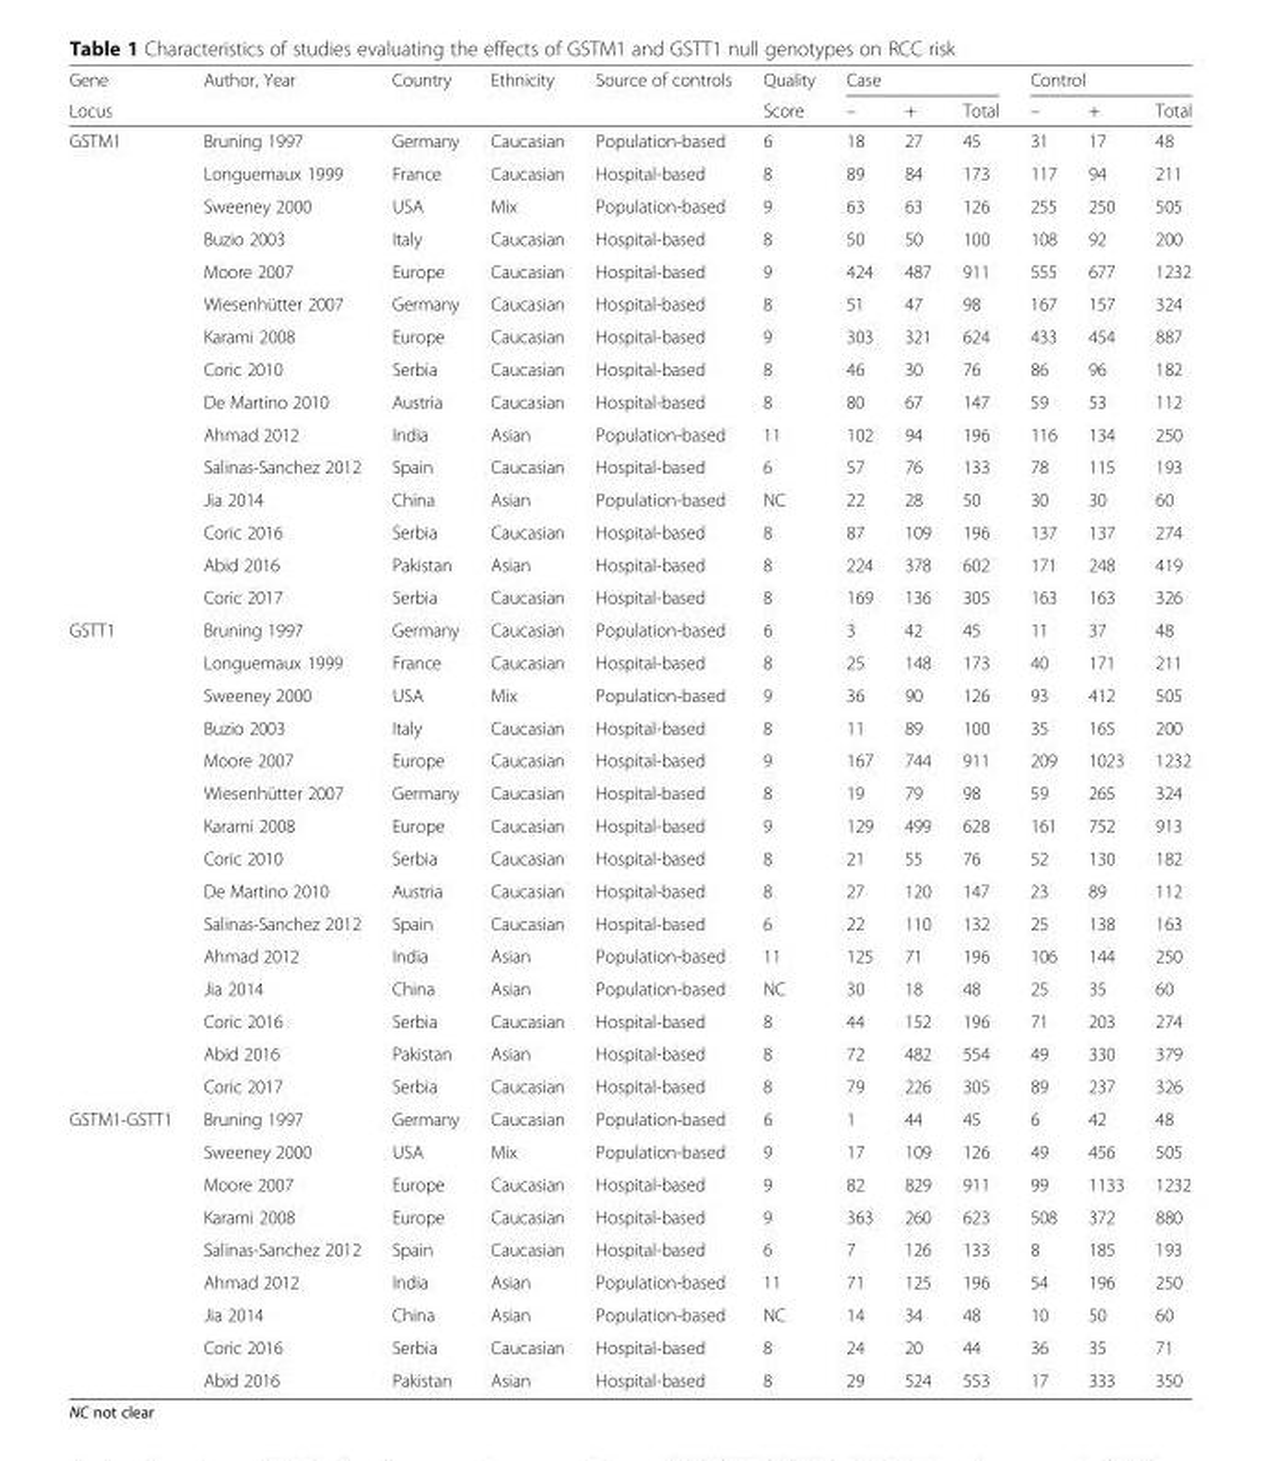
<table><thead><tr><td rowspan="2">Gene Locus</td><td rowspan="2">Author, Year</td><td rowspan="2">Country</td><td rowspan="2">Ethnicity</td><td rowspan="2">Source of controls</td><td rowspan="2">Quality Score</td><td colspan="3">Case</td><td colspan="3">Control</td></tr><tr><td>–</td><td>+</td><td>Total</td><td>–</td><td>+</td><td>Total</td></tr></thead><tbody><tr><td rowspan="15">GSTM1</td><td>Bruning 1997</td><td>Germany</td><td>Caucasian</td><td>Population-based</td><td>6</td><td>18</td><td>27</td><td>45</td><td>31</td><td>17</td><td>48</td></tr><tr><td>Longuemaux 1999</td><td>France</td><td>Caucasian</td><td>Hospital-based</td><td>8</td><td>89</td><td>84</td><td>173</td><td>117</td><td>94</td><td>211</td></tr><tr><td>Sweeney 2000</td><td>USA</td><td>Mix</td><td>Population-based</td><td>9</td><td>63</td><td>63</td><td>126</td><td>255</td><td>250</td><td>505</td></tr><tr><td>Buzio 2003</td><td>Italy</td><td>Caucasian</td><td>Hospital-based</td><td>8</td><td>50</td><td>50</td><td>100</td><td>108</td><td>92</td><td>200</td></tr><tr><td>Moore 2007</td><td>Europe</td><td>Caucasian</td><td>Hospital-based</td><td>9</td><td>424</td><td>487</td><td>911</td><td>555</td><td>677</td><td>1232</td></tr><tr><td>Wiesenhütter 2007</td><td>Germany</td><td>Caucasian</td><td>Hospital-based</td><td>8</td><td>51</td><td>47</td><td>98</td><td>167</td><td>157</td><td>324</td></tr><tr><td>Karami 2008</td><td>Europe</td><td>Caucasian</td><td>Hospital-based</td><td>9</td><td>303</td><td>321</td><td>624</td><td>433</td><td>454</td><td>887</td></tr><tr><td>Coric 2010</td><td>Serbia</td><td>Caucasian</td><td>Hospital-based</td><td>8</td><td>46</td><td>30</td><td>76</td><td>86</td><td>96</td><td>182</td></tr><tr><td>De Martino 2010</td><td>Austria</td><td>Caucasian</td><td>Hospital-based</td><td>8</td><td>80</td><td>67</td><td>147</td><td>59</td><td>53</td><td>112</td></tr><tr><td>Ahmad 2012</td><td>India</td><td>Asian</td><td>Population-based</td><td>11</td><td>102</td><td>94</td><td>196</td><td>116</td><td>134</td><td>250</td></tr><tr><td>Salinas-Sanchez 2012</td><td>Spain</td><td>Caucasian</td><td>Hospital-based</td><td>6</td><td>57</td><td>76</td><td>133</td><td>78</td><td>115</td><td>193</td></tr><tr><td>Jia 2014</td><td>China</td><td>Asian</td><td>Population-based</td><td>NC</td><td>22</td><td>28</td><td>50</td><td>30</td><td>30</td><td>60</td></tr><tr><td>Coric 2016</td><td>Serbia</td><td>Caucasian</td><td>Hospital-based</td><td>8</td><td>87</td><td>109</td><td>196</td><td>137</td><td>137</td><td>274</td></tr><tr><td>Abid 2016</td><td>Pakistan</td><td>Asian</td><td>Hospital-based</td><td>8</td><td>224</td><td>378</td><td>602</td><td>171</td><td>248</td><td>419</td></tr><tr><td>Coric 2017</td><td>Serbia</td><td>Caucasian</td><td>Hospital-based</td><td>8</td><td>169</td><td>136</td><td>305</td><td>163</td><td>163</td><td>326</td></tr><tr><td rowspan="15">GSTT1</td><td>Bruning 1997</td><td>Germany</td><td>Caucasian</td><td>Population-based</td><td>6</td><td>3</td><td>42</td><td>45</td><td>11</td><td>37</td><td>48</td></tr><tr><td>Longuemaux 1999</td><td>France</td><td>Caucasian</td><td>Hospital-based</td><td>8</td><td>25</td><td>148</td><td>173</td><td>40</td><td>171</td><td>211</td></tr><tr><td>Sweeney 2000</td><td>USA</td><td>Mix</td><td>Population-based</td><td>9</td><td>36</td><td>90</td><td>126</td><td>93</td><td>412</td><td>505</td></tr><tr><td>Buzio 2003</td><td>Italy</td><td>Caucasian</td><td>Hospital-based</td><td>8</td><td>11</td><td>89</td><td>100</td><td>35</td><td>165</td><td>200</td></tr><tr><td>Moore 2007</td><td>Europe</td><td>Caucasian</td><td>Hospital-based</td><td>9</td><td>167</td><td>744</td><td>911</td><td>209</td><td>1023</td><td>1232</td></tr><tr><td>Wiesenhütter 2007</td><td>Germany</td><td>Caucasian</td><td>Hospital-based</td><td>8</td><td>19</td><td>79</td><td>98</td><td>59</td><td>265</td><td>324</td></tr><tr><td>Karami 2008</td><td>Europe</td><td>Caucasian</td><td>Hospital-based</td><td>9</td><td>129</td><td>499</td><td>628</td><td>161</td><td>752</td><td>913</td></tr><tr><td>Coric 2010</td><td>Serbia</td><td>Caucasian</td><td>Hospital-based</td><td>8</td><td>21</td><td>55</td><td>76</td><td>52</td><td>130</td><td>182</td></tr><tr><td>De Martino 2010</td><td>Austria</td><td>Caucasian</td><td>Hospital-based</td><td>8</td><td>27</td><td>120</td><td>147</td><td>23</td><td>89</td><td>112</td></tr><tr><td>Salinas-Sanchez 2012</td><td>Spain</td><td>Caucasian</td><td>Hospital-based</td><td>6</td><td>22</td><td>110</td><td>132</td><td>25</td><td>138</td><td>163</td></tr><tr><td>Ahmad 2012</td><td>India</td><td>Asian</td><td>Population-based</td><td>11</td><td>125</td><td>71</td><td>196</td><td>106</td><td>144</td><td>250</td></tr><tr><td>Jia 2014</td><td>China</td><td>Asian</td><td>Population-based</td><td>NC</td><td>30</td><td>18</td><td>48</td><td>25</td><td>35</td><td>60</td></tr><tr><td>Coric 2016</td><td>Serbia</td><td>Caucasian</td><td>Hospital-based</td><td>8</td><td>44</td><td>152</td><td>196</td><td>71</td><td>203</td><td>274</td></tr><tr><td>Abid 2016</td><td>Pakistan</td><td>Asian</td><td>Hospital-based</td><td>8</td><td>72</td><td>482</td><td>554</td><td>49</td><td>330</td><td>379</td></tr><tr><td>Coric 2017</td><td>Serbia</td><td>Caucasian</td><td>Hospital-based</td><td>8</td><td>79</td><td>226</td><td>305</td><td>89</td><td>237</td><td>326</td></tr><tr><td rowspan="9">GSTM1-GSTT1</td><td>Bruning 1997</td><td>Germany</td><td>Caucasian</td><td>Population-based</td><td>6</td><td>1</td><td>44</td><td>45</td><td>6</td><td>42</td><td>48</td></tr><tr><td>Sweeney 2000</td><td>USA</td><td>Mix</td><td>Population-based</td><td>9</td><td>17</td><td>109</td><td>126</td><td>49</td><td>456</td><td>505</td></tr><tr><td>Moore 2007</td><td>Europe</td><td>Caucasian</td><td>Hospital-based</td><td>9</td><td>82</td><td>829</td><td>911</td><td>99</td><td>1133</td><td>1232</td></tr><tr><td>Karami 2008</td><td>Europe</td><td>Caucasian</td><td>Hospital-based</td><td>9</td><td>363</td><td>260</td><td>623</td><td>508</td><td>372</td><td>880</td></tr><tr><td>Salinas-Sanchez 2012</td><td>Spain</td><td>Caucasian</td><td>Hospital-based</td><td>6</td><td>7</td><td>126</td><td>133</td><td>8</td><td>185</td><td>193</td></tr><tr><td>Ahmad 2012</td><td>India</td><td>Asian</td><td>Population-based</td><td>11</td><td>71</td><td>125</td><td>196</td><td>54</td><td>196</td><td>250</td></tr><tr><td>Jia 2014</td><td>China</td><td>Asian</td><td>Population-based</td><td>NC</td><td>14</td><td>34</td><td>48</td><td>10</td><td>50</td><td>60</td></tr><tr><td>Coric 2016</td><td>Serbia</td><td>Caucasian</td><td>Hospital-based</td><td>8</td><td>24</td><td>20</td><td>44</td><td>36</td><td>35</td><td>71</td></tr><tr><td>Abid 2016</td><td>Pakistan</td><td>Asian</td><td>Hospital-based</td><td>8</td><td>29</td><td>524</td><td>553</td><td>17</td><td>333</td><td>350</td></tr></tbody></table>